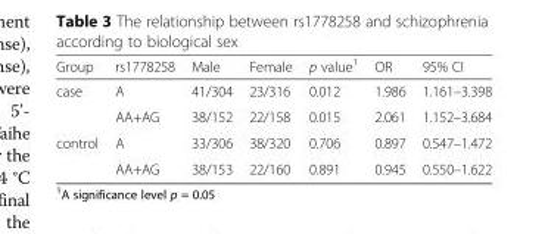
<table><thead><tr><td>Group</td><td>rs1778258</td><td>Male</td><td>Female</td><td>p value<sup>1</sup></td><td>OR</td><td>95% CI</td></tr></thead><tbody><tr><td rowspan="2">case</td><td>A</td><td>41/304</td><td>23/316</td><td>0.012</td><td>1.986</td><td>1.161–3.398</td></tr><tr><td>AA+AG</td><td>38/152</td><td>22/158</td><td>0.015</td><td>2.061</td><td>1.152–3.684</td></tr><tr><td rowspan="2">control</td><td>A</td><td>33/306</td><td>38/320</td><td>0.706</td><td>0.897</td><td>0.547–1.472</td></tr><tr><td>AA+AG</td><td>38/153</td><td>22/160</td><td>0.891</td><td>0.945</td><td>0.550–1.622</td></tr></tbody></table>